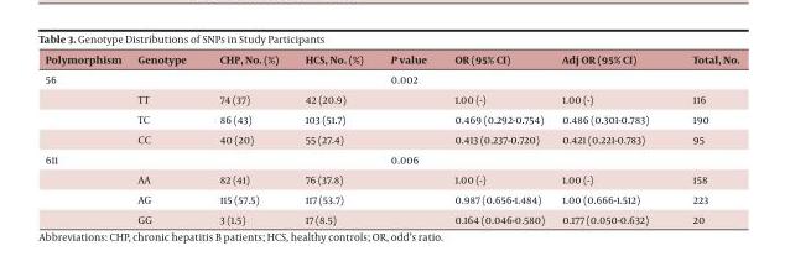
<table><thead><tr><td>Polymorphism</td><td>Genotype</td><td>CHP, No. (%)</td><td>HCS, No. (%)</td><td>P value</td><td>OR (95% CI)</td><td>Adj OR (95% CI)</td><td>Total, No.</td></tr></thead><tbody><tr><td rowspan="4">56</td><td></td><td></td><td></td><td>0.002</td><td></td><td></td><td></td></tr><tr><td>TT</td><td>74 (37)</td><td>42 (20.9)</td><td></td><td>1.00 (-)</td><td>1.00 (-)</td><td>116</td></tr><tr><td>TC</td><td>86 (43)</td><td>103 (51.7)</td><td></td><td>0.469 (0.292-0.754)</td><td>0.486 (0.301-0.783)</td><td>190</td></tr><tr><td>CC</td><td>40 (20)</td><td>55 (27.4)</td><td></td><td>0.413 (0.237-0.720)</td><td>0.421 (0.221-0.783)</td><td>95</td></tr><tr><td rowspan="4">611</td><td></td><td></td><td></td><td>0.006</td><td></td><td></td><td></td></tr><tr><td>AA</td><td>82 (41)</td><td>76 (37.8)</td><td></td><td>1.00 (-)</td><td>1.00 (-)</td><td>158</td></tr><tr><td>AG</td><td>115 (57.5)</td><td>117 (53.7)</td><td></td><td>0.987 (0.656-1.484)</td><td>1.00 (0.666-1.512)</td><td>223</td></tr><tr><td>GG</td><td>3 (1.5)</td><td>17 (8.5)</td><td></td><td>0.164 (0.046-0.580)</td><td>0.177 (0.050-0.632)</td><td>20</td></tr></tbody></table>